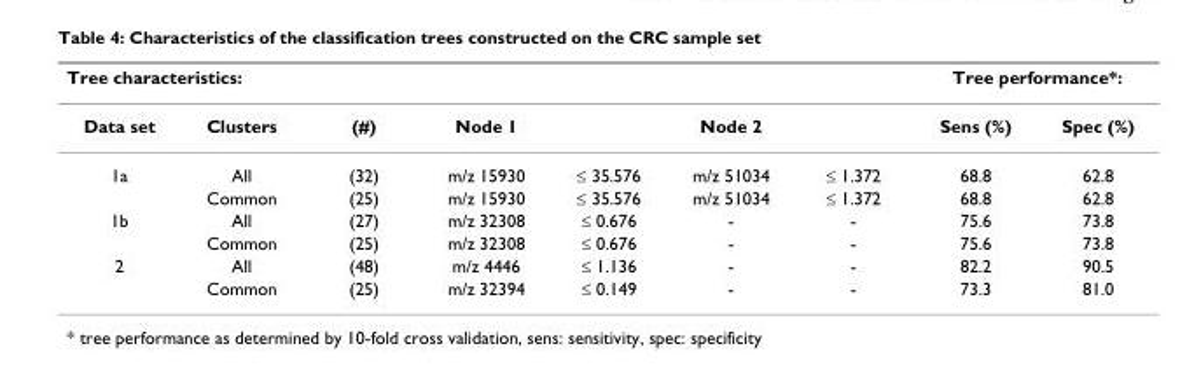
<table><thead><tr><td colspan="7">Tree characteristics:</td><td colspan="2">Tree performance*:</td></tr><tr><td>Data set</td><td>Clusters</td><td>(#)</td><td>Node 1</td><td></td><td>Node 2</td><td></td><td>Sens (%)</td><td>Spec (%)</td></tr></thead><tbody><tr><td rowspan="2">1a</td><td>All</td><td>(32)</td><td>m/z 15930</td><td>≤ 35.576</td><td>m/z 51034</td><td>≤ 1.372</td><td>68.8</td><td>62.8</td></tr><tr><td>Common</td><td>(25)</td><td>m/z 15930</td><td>≤ 35.576</td><td>m/z 51034</td><td>≤ 1.372</td><td>68.8</td><td>62.8</td></tr><tr><td rowspan="2">1b</td><td>All</td><td>(27)</td><td>m/z 32308</td><td>≤ 0.676</td><td>-</td><td>-</td><td>75.6</td><td>73.8</td></tr><tr><td>Common</td><td>(25)</td><td>m/z 32308</td><td>≤ 0.676</td><td>-</td><td>-</td><td>75.6</td><td>73.8</td></tr><tr><td rowspan="2">2</td><td>All</td><td>(48)</td><td>m/z 4446</td><td>≤ 1.136</td><td>-</td><td>-</td><td>82.2</td><td>90.5</td></tr><tr><td>Common</td><td>(25)</td><td>m/z 32394</td><td>≤ 0.149</td><td>-</td><td>-</td><td>73.3</td><td>81.0</td></tr></tbody></table>